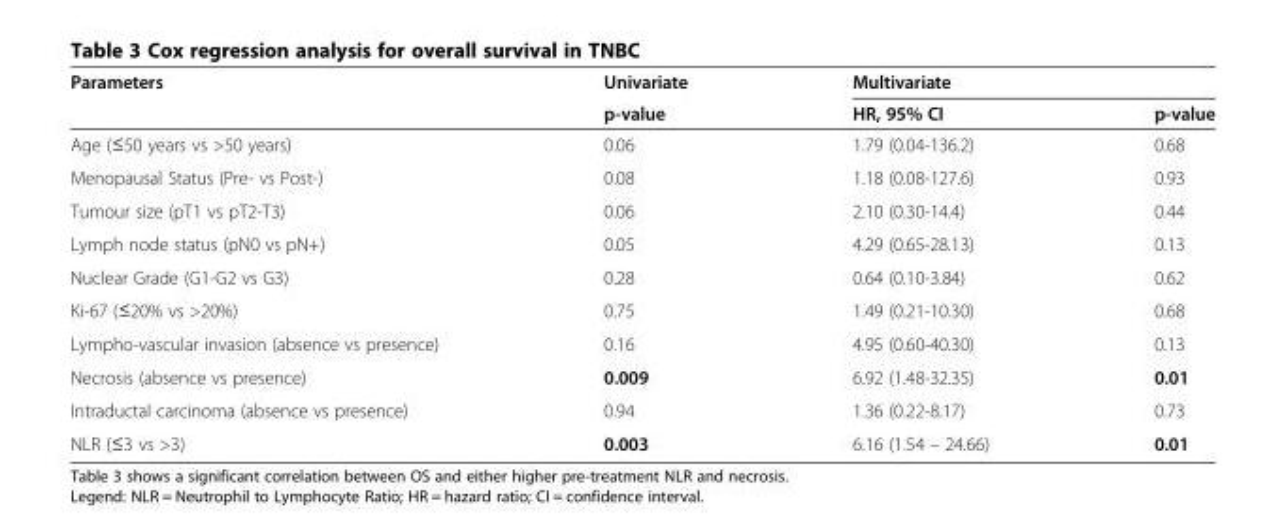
<table><thead><tr><td rowspan="2">Parameters</td><td rowspan="2">Univariate p-value</td><td colspan="2">Multivariate</td></tr><tr><td>HR, 95% CI</td><td>p-value</td></tr></thead><tbody><tr><td>Age (≤50 years vs &gt;50 years)</td><td>0.06</td><td>1.79 (0.04-136.2)</td><td>0.68</td></tr><tr><td>Menopausal Status (Pre- vs Post-)</td><td>0.08</td><td>1.18 (0.08-127.6)</td><td>0.93</td></tr><tr><td>Tumour size (pT1 vs pT2-T3)</td><td>0.06</td><td>2.10 (0.30-14.4)</td><td>0.44</td></tr><tr><td>Lymph node status (pN0 vs pN+)</td><td>0.05</td><td>4.29 (0.65-28.13)</td><td>0.13</td></tr><tr><td>Nuclear Grade (G1-G2 vs G3)</td><td>0.28</td><td>0.64 (0.10-3.84)</td><td>0.62</td></tr><tr><td>Ki-67 (≤20% vs &gt;20%)</td><td>0.75</td><td>1.49 (0.21-10.30)</td><td>0.68</td></tr><tr><td>Lympho-vascular invasion (absence vs presence)</td><td>0.16</td><td>4.95 (0.60-40.30)</td><td>0.13</td></tr><tr><td>Necrosis (absence vs presence)</td><td>0.009</td><td>6.92 (1.48-32.35)</td><td>0.01</td></tr><tr><td>Intraductal carcinoma (absence vs presence)</td><td>0.94</td><td>1.36 (0.22-8.17)</td><td>0.73</td></tr><tr><td>NLR (≤3 vs &gt;3)</td><td>0.003</td><td>6.16 (1.54 – 24.66)</td><td>0.01</td></tr></tbody></table>